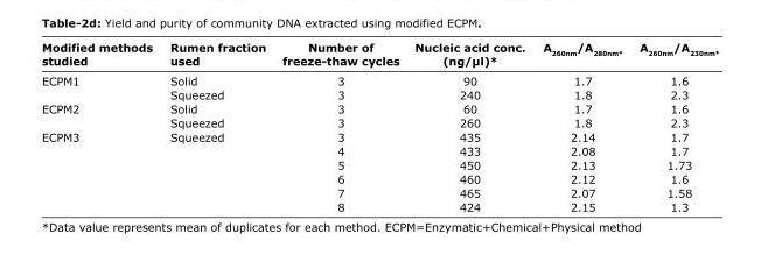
<table><thead><tr><td>Modified methods studied</td><td>Rumen fraction used</td><td>Number of freeze-thaw cycles</td><td>Nucleic acid conc. (ng/µl)*</td><td>A<sub>260nm</sub>/A<sub>280nm*</sub></td><td>A<sub>260nm</sub>/A<sub>230nm*</sub></td></tr></thead><tbody><tr><td rowspan="2">ECPM1</td><td>Solid</td><td>3</td><td>90</td><td>1.7</td><td>1.6</td></tr><tr><td>Squeezed</td><td>3</td><td>240</td><td>1.8</td><td>2.3</td></tr><tr><td rowspan="2">ECPM2</td><td>Solid</td><td>3</td><td>60</td><td>1.7</td><td>1.6</td></tr><tr><td>Squeezed</td><td>3</td><td>260</td><td>1.8</td><td>2.3</td></tr><tr><td rowspan="6">ECPM3</td><td>Squeezed</td><td>3</td><td>435</td><td>2.14</td><td>1.7</td></tr><tr><td></td><td>4</td><td>433</td><td>2.08</td><td>1.7</td></tr><tr><td></td><td>5</td><td>450</td><td>2.13</td><td>1.73</td></tr><tr><td></td><td>6</td><td>460</td><td>2.12</td><td>1.6</td></tr><tr><td></td><td>7</td><td>465</td><td>2.07</td><td>1.58</td></tr><tr><td></td><td>8</td><td>424</td><td>2.15</td><td>1.3</td></tr></tbody></table>